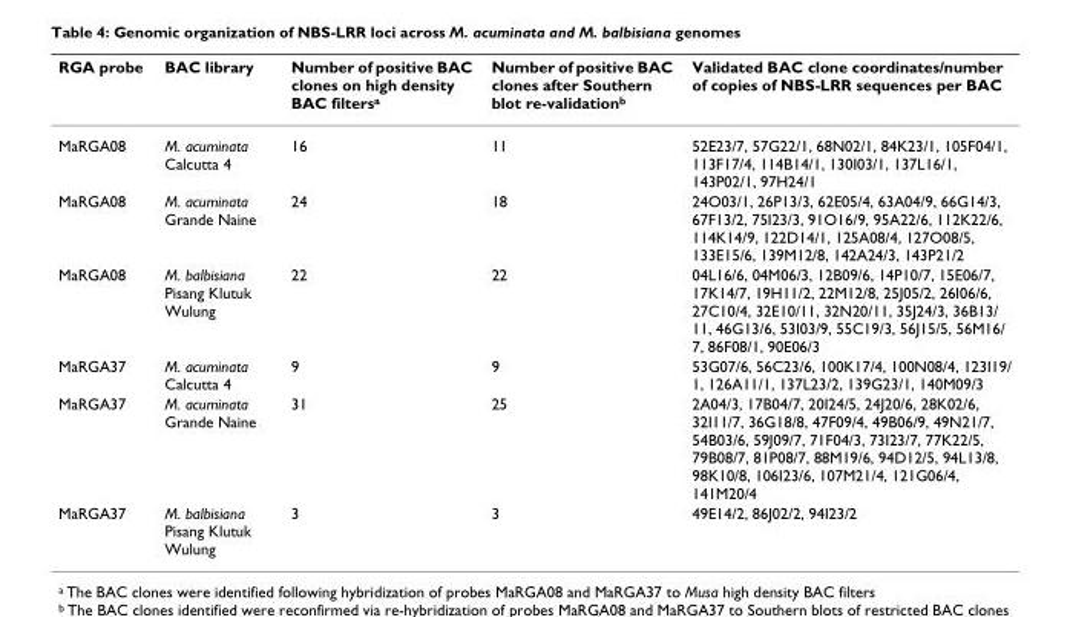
<table><thead><tr><td>RGA probe</td><td>BAC library</td><td>Number of positive BAC clones on high density BAC filters<sup>a</sup></td><td>Number of positive BAC clones after Southern blot re-validation<sup>b</sup></td><td>Validated BAC clone coordinates/number of copies of NBS-LRR sequences per BAC</td></tr></thead><tbody><tr><td>MaRGA08</td><td>M. acuminata Calcutta 4</td><td>16</td><td>11</td><td>52E23/7, 57G22/1, 68N02/1, 84K23/1, 105F04/1, 113F17/4, 114B14/1, 130I03/1, 137L16/1, 143P02/1, 97H24/1</td></tr><tr><td>MaRGA08</td><td>M. acuminata Grande Naine</td><td>24</td><td>18</td><td>24O03/1, 26P13/3, 62E05/4, 63A04/9, 66G14/3, 67F13/2, 75I23/3, 91O16/9, 95A22/6, 112K22/6, 114K14/9, 122D14/1, 125A08/4, 127O08/5, 133E15/6, 139M12/8, 142A24/3, 143P21/2</td></tr><tr><td>MaRGA08</td><td>M. balbisiana Pisang Klutuk Wulung</td><td>22</td><td>22</td><td>04L16/6, 04M06/3, 12B09/6, 14P10/7, 15E06/7, 17K14/7, 19H11/2, 22M12/8, 25J05/2, 26I06/6, 27C10/4, 32E10/11, 32N20/11, 35J24/3, 36B13/ 11, 46G13/6, 53I03/9, 55C19/3, 56J15/5, 56M16/ 7, 86F08/1, 90E06/3</td></tr><tr><td>MaRGA37</td><td>M. acuminata Calcutta 4</td><td>9</td><td>9</td><td>53G07/6, 56C23/6, 100K17/4, 100N08/4, 123I19/ 1, 126A11/1, 137L23/2, 139G23/1, 140M09/3</td></tr><tr><td>MaRGA37</td><td>M. acuminata Grande Naine</td><td>31</td><td>25</td><td>2A04/3, 17B04/7, 20I24/5, 24J20/6, 28K02/6, 32I11/7, 36G18/8, 47F09/4, 49B06/9, 49N21/7, 54B03/6, 59J09/7, 71F04/3, 73I23/7, 77K22/5, 79B08/7, 81P08/7, 88M19/6, 94D12/5, 94L13/8, 98K10/8, 106I23/6, 107M21/4, 121G06/4, 141M20/4</td></tr><tr><td>MaRGA37</td><td>M. balbisiana Pisang Klutuk Wulung</td><td>3</td><td>3</td><td>49E14/2, 86J02/2, 94I23/2</td></tr></tbody></table>